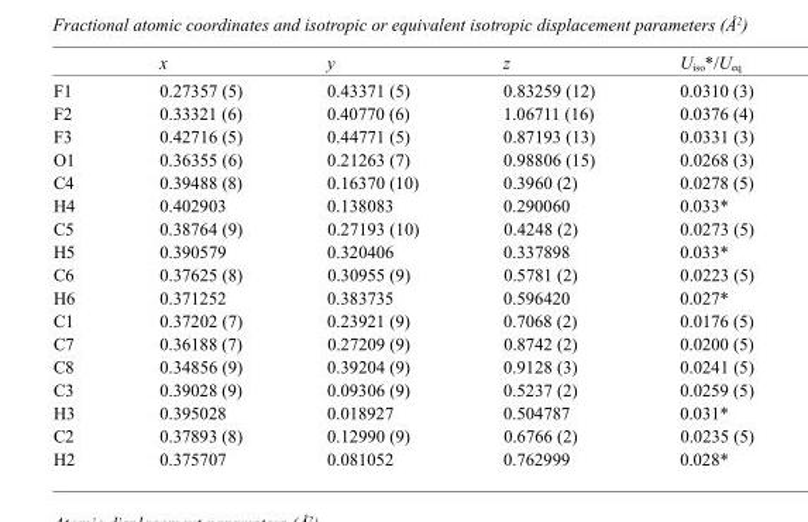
<table><thead><tr><td></td><td>x</td><td>y</td><td>z</td><td>U<sub>iso</sub>*/U<sub>eq</sub></td></tr></thead><tbody><tr><td>F1</td><td>0.27357 (5)</td><td>0.43371 (5)</td><td>0.83259 (12)</td><td>0.0310 (3)</td></tr><tr><td>F2</td><td>0.33321 (6)</td><td>0.40770 (6)</td><td>1.06711 (16)</td><td>0.0376 (4)</td></tr><tr><td>F3</td><td>0.42716 (5)</td><td>0.44771 (5)</td><td>0.87193 (13)</td><td>0.0331 (3)</td></tr><tr><td>O1</td><td>0.36355 (6)</td><td>0.21263 (7)</td><td>0.98806 (15)</td><td>0.0268 (3)</td></tr><tr><td>C4</td><td>0.39488 (8)</td><td>0.16370 (10)</td><td>0.3960 (2)</td><td>0.0278 (5)</td></tr><tr><td>H4</td><td>0.402903</td><td>0.138083</td><td>0.290060</td><td>0.033*</td></tr><tr><td>C5</td><td>0.38764 (9)</td><td>0.27193 (10)</td><td>0.4248 (2)</td><td>0.0273 (5)</td></tr><tr><td>H5</td><td>0.390579</td><td>0.320406</td><td>0.337898</td><td>0.033*</td></tr><tr><td>C6</td><td>0.37625 (8)</td><td>0.30955 (9)</td><td>0.5781 (2)</td><td>0.0223 (5)</td></tr><tr><td>H6</td><td>0.371252</td><td>0.383735</td><td>0.596420</td><td>0.027*</td></tr><tr><td>C1</td><td>0.37202 (7)</td><td>0.23921 (9)</td><td>0.7068 (2)</td><td>0.0176 (5)</td></tr><tr><td>C7</td><td>0.36188 (7)</td><td>0.27209 (9)</td><td>0.8742 (2)</td><td>0.0200 (5)</td></tr><tr><td>C8</td><td>0.34856 (9)</td><td>0.39204 (9)</td><td>0.9128 (3)</td><td>0.0241 (5)</td></tr><tr><td>C3</td><td>0.39028 (9)</td><td>0.09306 (9)</td><td>0.5237 (2)</td><td>0.0259 (5)</td></tr><tr><td>H3</td><td>0.395028</td><td>0.018927</td><td>0.504787</td><td>0.031*</td></tr><tr><td>C2</td><td>0.37893 (8)</td><td>0.12990 (9)</td><td>0.6766 (2)</td><td>0.0235 (5)</td></tr><tr><td>H2</td><td>0.375707</td><td>0.081052</td><td>0.762999</td><td>0.028*</td></tr></tbody></table>